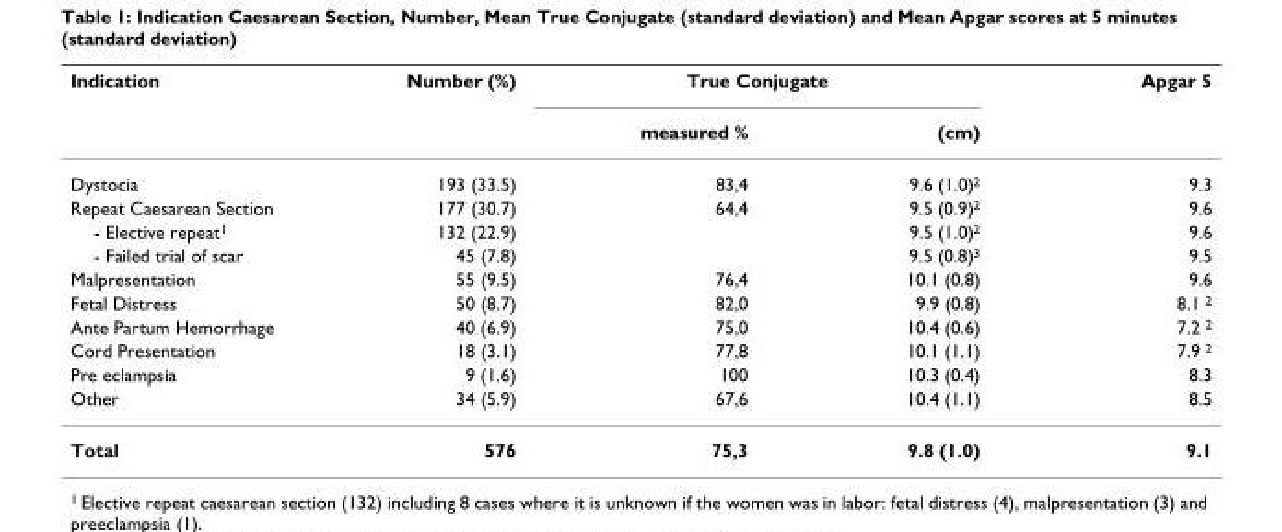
<table><thead><tr><td rowspan="2">Indication</td><td rowspan="2">Number (%)</td><td colspan="2">True Conjugate</td><td rowspan="2">Apgar 5</td></tr><tr><td>measured %</td><td>(cm)</td></tr></thead><tbody><tr><td>Dystocia</td><td>193 (33.5)</td><td>83,4</td><td>9.6 (1.0)<sup>2</sup></td><td>9.3</td></tr><tr><td>Repeat Caesarean Section</td><td>177 (30.7)</td><td>64,4</td><td>9.5 (0.9)<sup>2</sup></td><td>9.6</td></tr><tr><td>- Elective repeat<sup>1</sup></td><td>132 (22.9)</td><td></td><td>9.5 (1.0)<sup>2</sup></td><td>9.6</td></tr><tr><td>- Failed trial of scar</td><td>45 (7.8)</td><td></td><td>9.5 (0.8)<sup>3</sup></td><td>9.5</td></tr><tr><td>Malpresentation</td><td>55 (9.5)</td><td>76,4</td><td>10.1 (0.8)</td><td>9.6</td></tr><tr><td>Fetal Distress</td><td>50 (8.7)</td><td>82,0</td><td>9.9 (0.8)</td><td>8.1 <sup>2</sup></td></tr><tr><td>Ante Partum Hemorrhage</td><td>40 (6.9)</td><td>75,0</td><td>10.4 (0.6)</td><td>7.2 <sup>2</sup></td></tr><tr><td>Cord Presentation</td><td>18 (3.1)</td><td>77,8</td><td>10.1 (1.1)</td><td>7.9 <sup>2</sup></td></tr><tr><td>Pre eclampsia</td><td>9 (1.6)</td><td>100</td><td>10.3 (0.4)</td><td>8.3</td></tr><tr><td>Other</td><td>34 (5.9)</td><td>67,6</td><td>10.4 (1.1)</td><td>8.5</td></tr><tr><td>Total</td><td>576</td><td>75,3</td><td>9.8 (1.0)</td><td>9.1</td></tr></tbody></table>